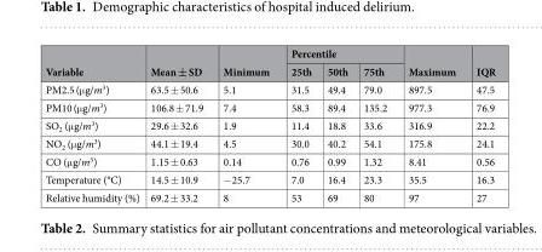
<table><thead><tr><td rowspan="2">Variable</td><td rowspan="2">Mean ± SD</td><td rowspan="2">Minimum</td><td colspan="3">Percentile</td><td rowspan="2">Maximum</td><td rowspan="2">IQR</td></tr><tr><td>25th</td><td>50th</td><td>75th</td></tr></thead><tbody><tr><td>PM2.5 (μg/m<sup>3</sup>)</td><td>63.5 ± 50.6</td><td>5.1</td><td>31.5</td><td>49.4</td><td>79.0</td><td>897.5</td><td>47.5</td></tr><tr><td>PM10 (μg/m<sup>3</sup>)</td><td>106.8 ± 71.9</td><td>7.4</td><td>58.3</td><td>89.4</td><td>135.2</td><td>977.3</td><td>76.9</td></tr><tr><td>SO<sub>2</sub> (μg/m<sup>3</sup>)</td><td>29.6 ± 32.6</td><td>1.9</td><td>11.4</td><td>18.8</td><td>33.6</td><td>316.9</td><td>22.2</td></tr><tr><td>NO<sub>2</sub> (μg/m<sup>3</sup>)</td><td>44.1 ± 19.4</td><td>4.5</td><td>30.0</td><td>40.2</td><td>54.1</td><td>175.8</td><td>24.1</td></tr><tr><td>CO (μg/m<sup>3</sup>)</td><td>1.15 ± 0.63</td><td>0.14</td><td>0.76</td><td>0.99</td><td>1.32</td><td>8.41</td><td>0.56</td></tr><tr><td>Temperature (°C)</td><td>14.5 ± 10.9</td><td>−25.7</td><td>7.0</td><td>16.4</td><td>23.3</td><td>35.5</td><td>16.3</td></tr><tr><td>Relative humidity (%)</td><td>69.2 ± 33.2</td><td>8</td><td>53</td><td>69</td><td>80</td><td>97</td><td>27</td></tr></tbody></table>